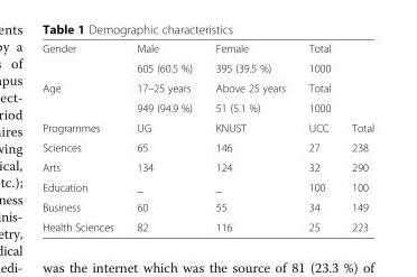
<table><tbody><tr><td rowspan="2">Gender</td><td>Male</td><td>Female</td><td colspan="2">Total</td></tr><tr><td>605 (60.5 %)</td><td>395 (39.5 %)</td><td colspan="2">1000</td></tr><tr><td rowspan="2">Age</td><td>17–25 years</td><td>Above 25 years</td><td colspan="2">Total</td></tr><tr><td>949 (94.9 %)</td><td>51 (5.1 %)</td><td colspan="2">1000</td></tr><tr><td>Programmes</td><td>UG</td><td>KNUST</td><td>UCC</td><td>Total</td></tr><tr><td>Sciences</td><td>65</td><td>146</td><td>27</td><td>238</td></tr><tr><td>Arts</td><td>134</td><td>124</td><td>32</td><td>290</td></tr><tr><td>Education</td><td>_</td><td>_</td><td>100</td><td>100</td></tr><tr><td>Business</td><td>60</td><td>55</td><td>34</td><td>149</td></tr><tr><td>Health Sciences</td><td>82</td><td>116</td><td>25</td><td>223</td></tr></tbody></table>